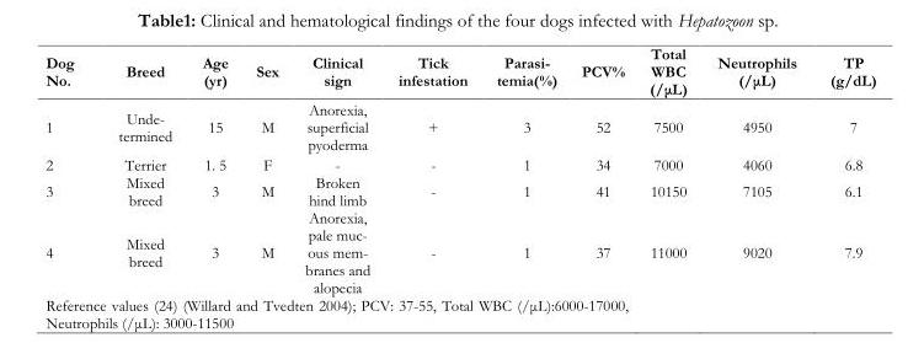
<table><thead><tr><td>Dog No.</td><td>Breed</td><td>Age (yr)</td><td>Sex</td><td>Clinical sign</td><td>Tick infestation</td><td>Parasi- temia(%)</td><td>PCV%</td><td>Total WBC (/μL)</td><td>Neutrophils (/μL)</td><td>TP (g/dL)</td></tr></thead><tbody><tr><td>1</td><td>Unde- termined</td><td>15</td><td>M</td><td>Anorexia, superficial pyoderma</td><td>+</td><td>3</td><td>52</td><td>7500</td><td>4950</td><td>7</td></tr><tr><td>2</td><td>Terrier</td><td>1. 5</td><td>F</td><td>-</td><td>-</td><td>1</td><td>34</td><td>7000</td><td>4060</td><td>6.8</td></tr><tr><td>3</td><td>Mixed breed</td><td>3</td><td>M</td><td>Broken hind limb</td><td>-</td><td>1</td><td>41</td><td>10150</td><td>7105</td><td>6.1</td></tr><tr><td>4</td><td>Mixed breed</td><td>3</td><td>M</td><td>Anorexia, pale muc- ous mem- branes and alopecia</td><td>-</td><td>1</td><td>37</td><td>11000</td><td>9020</td><td>7.9</td></tr></tbody></table>